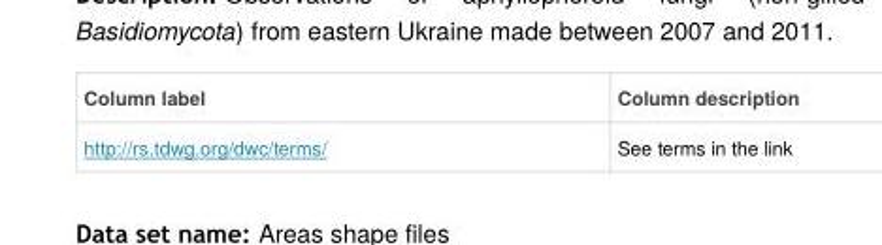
<table><thead><tr><td>Column label</td><td>Column description</td></tr></thead><tbody><tr><td>http://rs.tdwg.org/dwc/terms/</td><td>See terms in the link</td></tr></tbody></table>